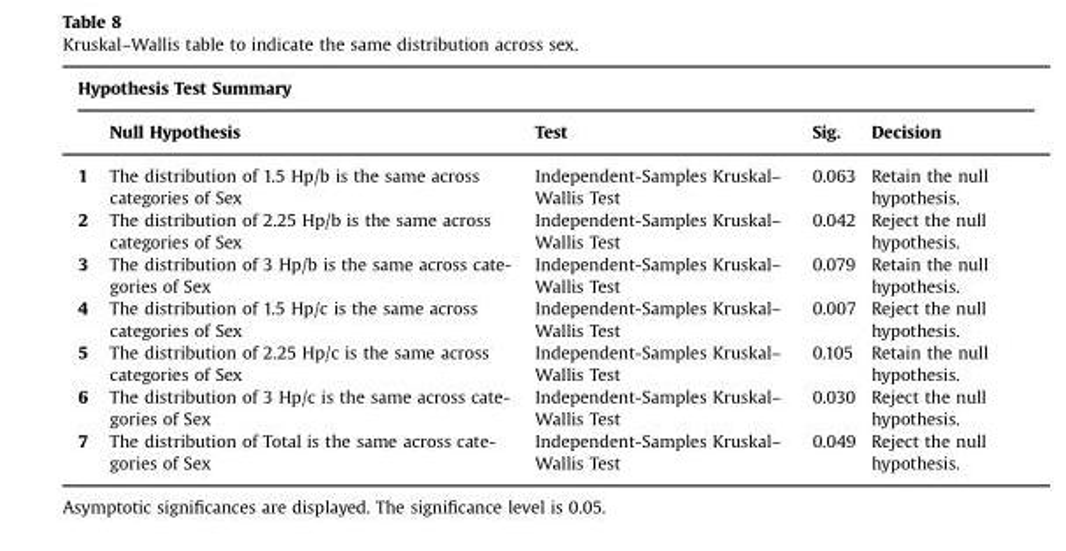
<table><thead><tr><td colspan="5">Hypothesis Test Summary</td></tr><tr><td></td><td>Null Hypothesis</td><td>Test</td><td>Sig.</td><td>Decision</td></tr></thead><tbody><tr><td>1</td><td>The distribution of 1.5 Hp/b is the same across categories of Sex</td><td>Independent-Samples Kruskal– Wallis Test</td><td>0.063</td><td>Retain the null hypothesis.</td></tr><tr><td>2</td><td>The distribution of 2.25 Hp/b is the same across categories of Sex</td><td>Independent-Samples Kruskal– Wallis Test</td><td>0.042</td><td>Reject the null hypothesis.</td></tr><tr><td>3</td><td>The distribution of 3 Hp/b is the same across cate- gories of Sex</td><td>Independent-Samples Kruskal– Wallis Test</td><td>0.079</td><td>Retain the null hypothesis.</td></tr><tr><td>4</td><td>The distribution of 1.5 Hp/c is the same across categories of Sex</td><td>Independent-Samples Kruskal– Wallis Test</td><td>0.007</td><td>Reject the null hypothesis.</td></tr><tr><td>5</td><td>The distribution of 2.25 Hp/c is the same across categories of Sex</td><td>Independent-Samples Kruskal– Wallis Test</td><td>0.105</td><td>Retain the null hypothesis.</td></tr><tr><td>6</td><td>The distribution of 3 Hp/c is the same across cate- gories of Sex</td><td>Independent-Samples Kruskal– Wallis Test</td><td>0.030</td><td>Reject the null hypothesis.</td></tr><tr><td>7</td><td>The distribution of Total is the same across cate- gories of Sex</td><td>Independent-Samples Kruskal– Wallis Test</td><td>0.049</td><td>Reject the null hypothesis.</td></tr></tbody></table>